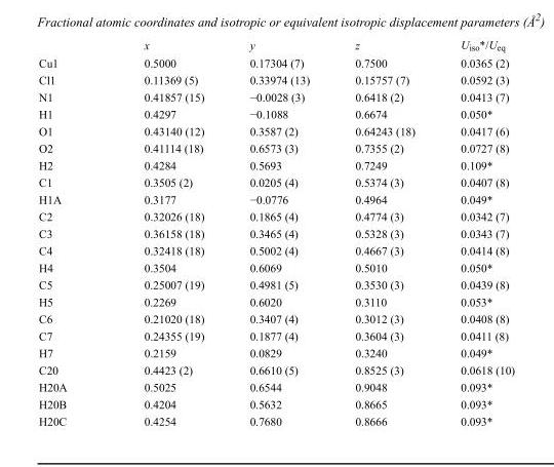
<table><thead><tr><td></td><td>x</td><td>y</td><td>z</td><td>U<sub>iso</sub>*/U<sub>eq</sub></td></tr></thead><tbody><tr><td>Cu1</td><td>0.5000</td><td>0.17304 (7)</td><td>0.7500</td><td>0.0365 (2)</td></tr><tr><td>Cl1</td><td>0.11369 (5)</td><td>0.33974 (13)</td><td>0.15757 (7)</td><td>0.0592 (3)</td></tr><tr><td>N1</td><td>0.41857 (15)</td><td>−0.0028 (3)</td><td>0.6418 (2)</td><td>0.0413 (7)</td></tr><tr><td>H1</td><td>0.4297</td><td>−0.1088</td><td>0.6674</td><td>0.050*</td></tr><tr><td>O1</td><td>0.43140 (12)</td><td>0.3587 (2)</td><td>0.64243 (18)</td><td>0.0417 (6)</td></tr><tr><td>O2</td><td>0.41114 (18)</td><td>0.6573 (3)</td><td>0.7355 (2)</td><td>0.0727 (8)</td></tr><tr><td>H2</td><td>0.4284</td><td>0.5693</td><td>0.7249</td><td>0.109*</td></tr><tr><td>C1</td><td>0.3505 (2)</td><td>0.0205 (4)</td><td>0.5374 (3)</td><td>0.0407 (8)</td></tr><tr><td>H1A</td><td>0.3177</td><td>−0.0776</td><td>0.4964</td><td>0.049*</td></tr><tr><td>C2</td><td>0.32026 (18)</td><td>0.1865 (4)</td><td>0.4774 (3)</td><td>0.0342 (7)</td></tr><tr><td>C3</td><td>0.36158 (18)</td><td>0.3465 (4)</td><td>0.5328 (3)</td><td>0.0343 (7)</td></tr><tr><td>C4</td><td>0.32418 (18)</td><td>0.5002 (4)</td><td>0.4667 (3)</td><td>0.0414 (8)</td></tr><tr><td>H4</td><td>0.3504</td><td>0.6069</td><td>0.5010</td><td>0.050*</td></tr><tr><td>C5</td><td>0.25007 (19)</td><td>0.4981 (5)</td><td>0.3530 (3)</td><td>0.0439 (8)</td></tr><tr><td>H5</td><td>0.2269</td><td>0.6020</td><td>0.3110</td><td>0.053*</td></tr><tr><td>C6</td><td>0.21020 (18)</td><td>0.3407 (4)</td><td>0.3012 (3)</td><td>0.0408 (8)</td></tr><tr><td>C7</td><td>0.24355 (19)</td><td>0.1877 (4)</td><td>0.3604 (3)</td><td>0.0411 (8)</td></tr><tr><td>H7</td><td>0.2159</td><td>0.0829</td><td>0.3240</td><td>0.049*</td></tr><tr><td>C20</td><td>0.4423 (2)</td><td>0.6610 (5)</td><td>0.8525 (3)</td><td>0.0618 (10)</td></tr><tr><td>H20A</td><td>0.5025</td><td>0.6544</td><td>0.9048</td><td>0.093*</td></tr><tr><td>H20B</td><td>0.4204</td><td>0.5632</td><td>0.8665</td><td>0.093*</td></tr><tr><td>H20C</td><td>0.4254</td><td>0.7680</td><td>0.8666</td><td>0.093*</td></tr></tbody></table>